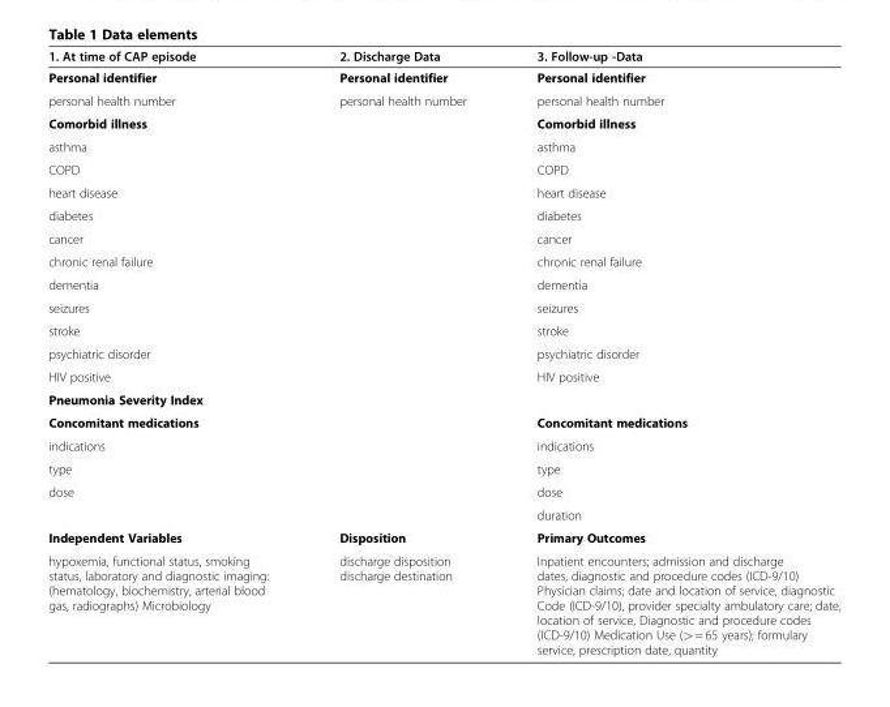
<table><thead><tr><td>1. At time of CAP episode</td><td>2. Discharge Data</td><td>3. Follow-up -Data</td></tr></thead><tbody><tr><td>Personal identifier</td><td>Personal identifier</td><td>Personal identifier</td></tr><tr><td>personal health number</td><td>personal health number</td><td>personal health number</td></tr><tr><td>Comorbid illness</td><td></td><td>Comorbid illness</td></tr><tr><td>asthma</td><td></td><td>asthma</td></tr><tr><td>COPD</td><td></td><td>COPD</td></tr><tr><td>heart disease</td><td></td><td>heart disease</td></tr><tr><td>diabetes</td><td></td><td>diabetes</td></tr><tr><td>cancer</td><td></td><td>cancer</td></tr><tr><td>chronic renal failure</td><td></td><td>chronic renal failure</td></tr><tr><td>dementia</td><td></td><td>dementia</td></tr><tr><td>seizures</td><td></td><td>seizures</td></tr><tr><td>stroke</td><td></td><td>stroke</td></tr><tr><td>psychiatric disorder</td><td></td><td>psychiatric disorder</td></tr><tr><td>HIV positive</td><td></td><td>HIV positive</td></tr><tr><td colspan="3">Pneumonia Severity Index</td></tr><tr><td>Concomitant medications</td><td></td><td>Concomitant medications</td></tr><tr><td>indications</td><td></td><td>indications</td></tr><tr><td>type</td><td></td><td>type</td></tr><tr><td rowspan="2">dose</td><td></td><td>dose</td></tr><tr><td></td><td>duration</td></tr><tr><td>Independent Variables</td><td>Disposition</td><td>Primary Outcomes</td></tr><tr><td>hypoxemia, functional status, smoking status, laboratory and diagnostic imaging: (hematology, biochemistry, arterial blood gas, radiographs) Microbiology</td><td>discharge disposition discharge destination</td><td>Inpatient encounters; admission and discharge dates, diagnostic and procedure codes (ICD-9/10) Physician claims; date and location of service, diagnostic Code (ICD-9/10), provider specialty ambulatory care; date, location of service, Diagnostic and procedure codes (ICD-9/10) Medication Use (&gt; = 65 years); formulary service, prescription date, quantity</td></tr></tbody></table>